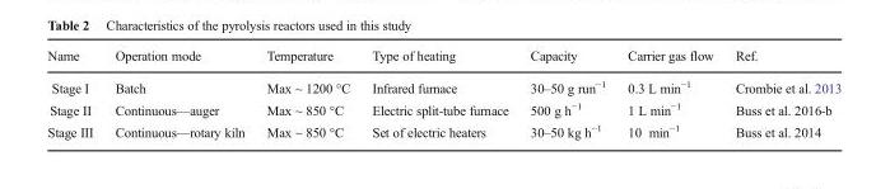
<table><thead><tr><td>Name</td><td>Operation mode</td><td>Temperature</td><td>Type of heating</td><td>Capacity</td><td>Carrier gas flow</td><td>Ref.</td></tr></thead><tbody><tr><td>Stage I</td><td>Batch</td><td>Max ~ 1200 °C</td><td>Infrared furnace</td><td>30–50 g run<sup>−1</sup></td><td>0.3 L min<sup>−1</sup></td><td>Crombie et al. 2013</td></tr><tr><td>Stage II</td><td>Continuous—auger</td><td>Max ~ 850 °C</td><td>Electric split-tube furnace</td><td>500 g h<sup>−1</sup></td><td>1 L min<sup>−1</sup></td><td>Buss et al. 2016-b</td></tr><tr><td>Stage III</td><td>Continuous—rotary kiln</td><td>Max ~ 850 °C</td><td>Set of electric heaters</td><td>30–50 kg h<sup>−1</sup></td><td>10 min<sup>−1</sup></td><td>Buss et al. 2014</td></tr></tbody></table>